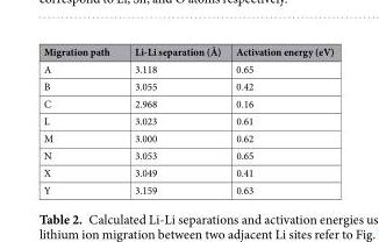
<table><thead><tr><td>Migration path</td><td>Li-Li separation (Å)</td><td>Activation energy (eV)</td></tr></thead><tbody><tr><td>A</td><td>3.118</td><td>0.65</td></tr><tr><td>B</td><td>3.055</td><td>0.42</td></tr><tr><td>C</td><td>2.968</td><td>0.16</td></tr><tr><td>L</td><td>3.023</td><td>0.61</td></tr><tr><td>M</td><td>3.000</td><td>0.62</td></tr><tr><td>N</td><td>3.053</td><td>0.65</td></tr><tr><td>X</td><td>3.049</td><td>0.41</td></tr><tr><td>Y</td><td>3.159</td><td>0.63</td></tr></tbody></table>